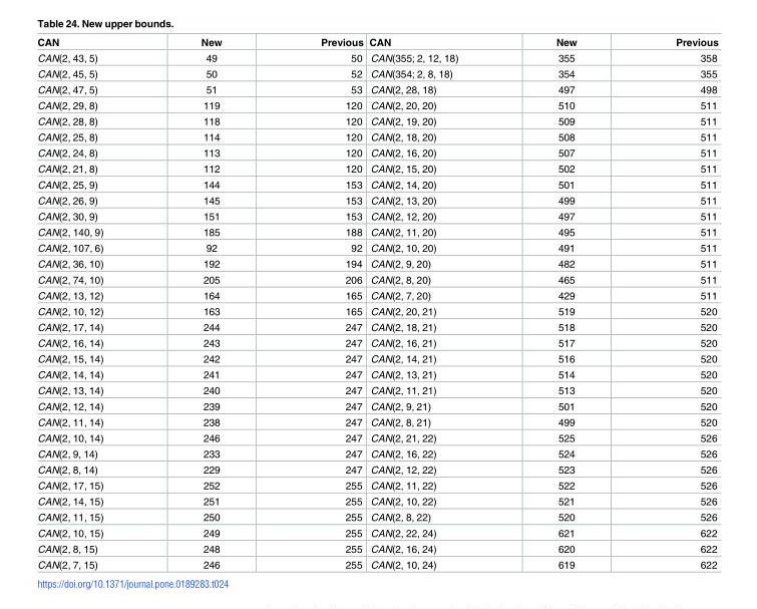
<table><thead><tr><td>CAN</td><td>New</td><td>Previous</td><td>CAN</td><td>New</td><td>Previous</td></tr></thead><tbody><tr><td>CAN(2, 43, 5)</td><td>49</td><td>50</td><td>CAN(355; 2, 12, 18)</td><td>355</td><td>358</td></tr><tr><td>CAN(2, 45, 5)</td><td>50</td><td>52</td><td>CAN(354; 2, 8, 18)</td><td>354</td><td>355</td></tr><tr><td>CAN(2, 47, 5)</td><td>51</td><td>53</td><td>CAN(2, 28, 18)</td><td>497</td><td>498</td></tr><tr><td>CAN(2, 29, 8)</td><td>119</td><td>120</td><td>CAN(2, 20, 20)</td><td>510</td><td>511</td></tr><tr><td>CAN(2, 28, 8)</td><td>118</td><td>120</td><td>CAN(2, 19, 20)</td><td>509</td><td>511</td></tr><tr><td>CAN(2, 25, 8)</td><td>114</td><td>120</td><td>CAN(2, 18, 20)</td><td>508</td><td>511</td></tr><tr><td>CAN(2, 24, 8)</td><td>113</td><td>120</td><td>CAN(2, 16, 20)</td><td>507</td><td>511</td></tr><tr><td>CAN(2, 21, 8)</td><td>112</td><td>120</td><td>CAN(2, 15, 20)</td><td>502</td><td>511</td></tr><tr><td>CAN(2, 25, 9)</td><td>144</td><td>153</td><td>CAN(2, 14, 20)</td><td>501</td><td>511</td></tr><tr><td>CAN(2, 26, 9)</td><td>145</td><td>153</td><td>CAN(2, 13, 20)</td><td>499</td><td>511</td></tr><tr><td>CAN(2, 30, 9)</td><td>151</td><td>153</td><td>CAN(2, 12, 20)</td><td>497</td><td>511</td></tr><tr><td>CAN(2, 140, 9)</td><td>185</td><td>188</td><td>CAN(2, 11, 20)</td><td>495</td><td>511</td></tr><tr><td>CAN(2, 107, 6)</td><td>92</td><td>92</td><td>CAN(2, 10, 20)</td><td>491</td><td>511</td></tr><tr><td>CAN(2, 36, 10)</td><td>192</td><td>194</td><td>CAN(2, 9, 20)</td><td>482</td><td>511</td></tr><tr><td>CAN(2, 74, 10)</td><td>205</td><td>206</td><td>CAN(2, 8, 20)</td><td>465</td><td>511</td></tr><tr><td>CAN(2, 13, 12)</td><td>164</td><td>165</td><td>CAN(2, 7, 20)</td><td>429</td><td>511</td></tr><tr><td>CAN(2, 10, 12)</td><td>163</td><td>165</td><td>CAN(2, 20, 21)</td><td>519</td><td>520</td></tr><tr><td>CAN(2, 17, 14)</td><td>244</td><td>247</td><td>CAN(2, 18, 21)</td><td>518</td><td>520</td></tr><tr><td>CAN(2, 16, 14)</td><td>243</td><td>247</td><td>CAN(2, 16, 21)</td><td>517</td><td>520</td></tr><tr><td>CAN(2, 15, 14)</td><td>242</td><td>247</td><td>CAN(2, 14, 21)</td><td>516</td><td>520</td></tr><tr><td>CAN(2, 14, 14)</td><td>241</td><td>247</td><td>CAN(2, 13, 21)</td><td>514</td><td>520</td></tr><tr><td>CAN(2, 13, 14)</td><td>240</td><td>247</td><td>CAN(2, 11, 21)</td><td>513</td><td>520</td></tr><tr><td>CAN(2, 12, 14)</td><td>239</td><td>247</td><td>CAN(2, 9, 21)</td><td>501</td><td>520</td></tr><tr><td>CAN(2, 11, 14)</td><td>238</td><td>247</td><td>CAN(2, 8, 21)</td><td>499</td><td>520</td></tr><tr><td>CAN(2, 10, 14)</td><td>246</td><td>247</td><td>CAN(2, 21, 22)</td><td>525</td><td>526</td></tr><tr><td>CAN(2, 9, 14)</td><td>233</td><td>247</td><td>CAN(2, 16, 22)</td><td>524</td><td>526</td></tr><tr><td>CAN(2, 8, 14)</td><td>229</td><td>247</td><td>CAN(2, 12, 22)</td><td>523</td><td>526</td></tr><tr><td>CAN(2, 17, 15)</td><td>252</td><td>255</td><td>CAN(2, 11, 22)</td><td>522</td><td>526</td></tr><tr><td>CAN(2, 14, 15)</td><td>251</td><td>255</td><td>CAN(2, 10, 22)</td><td>521</td><td>526</td></tr><tr><td>CAN(2, 11, 15)</td><td>250</td><td>255</td><td>CAN(2, 8, 22)</td><td>520</td><td>526</td></tr><tr><td>CAN(2, 10, 15)</td><td>249</td><td>255</td><td>CAN(2, 22, 24)</td><td>621</td><td>622</td></tr><tr><td>CAN(2, 8, 15)</td><td>248</td><td>255</td><td>CAN(2, 16, 24)</td><td>620</td><td>622</td></tr><tr><td>CAN(2, 7, 15)</td><td>246</td><td>255</td><td>CAN(2, 10, 24)</td><td>619</td><td>622</td></tr></tbody></table>